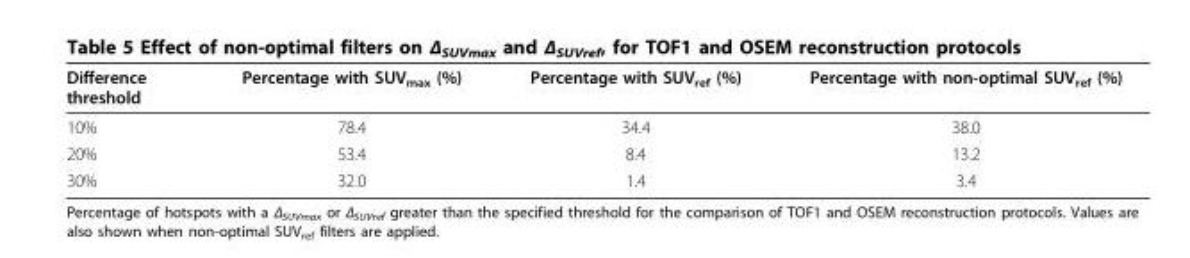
<table><thead><tr><td>Difference threshold</td><td>Percentage with SUV<sub>max</sub> (%)</td><td>Percentage with SUV<sub>ref</sub> (%)</td><td>Percentage with non-optimal SUV<sub>ref</sub> (%)</td></tr></thead><tbody><tr><td>10%</td><td>78.4</td><td>34.4</td><td>38.0</td></tr><tr><td>20%</td><td>53.4</td><td>8.4</td><td>13.2</td></tr><tr><td>30%</td><td>32.0</td><td>1.4</td><td>3.4</td></tr></tbody></table>